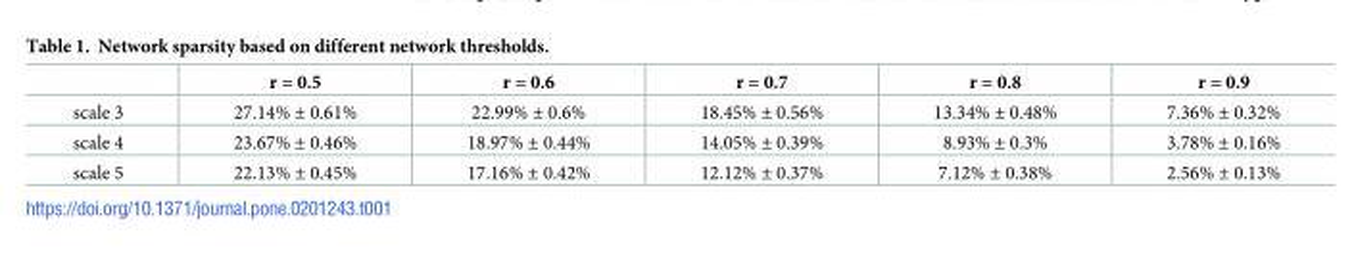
<table><thead><tr><td></td><td>r = 0.5</td><td>r = 0.6</td><td>r = 0.7</td><td>r = 0.8</td><td>r = 0.9</td></tr></thead><tbody><tr><td>scale 3</td><td>27.14% ± 0.61%</td><td>22.99% ± 0.6%</td><td>18.45% ± 0.56%</td><td>13.34% ± 0.48%</td><td>7.36% ± 0.32%</td></tr><tr><td>scale 4</td><td>23.67% ± 0.46%</td><td>18.97% ± 0.44%</td><td>14.05% ± 0.39%</td><td>8.93% ± 0.3%</td><td>3.78% ± 0.16%</td></tr><tr><td>scale 5</td><td>22.13% ± 0.45%</td><td>17.16% ± 0.42%</td><td>12.12% ± 0.37%</td><td>7.12% ± 0.38%</td><td>2.56% ± 0.13%</td></tr></tbody></table>